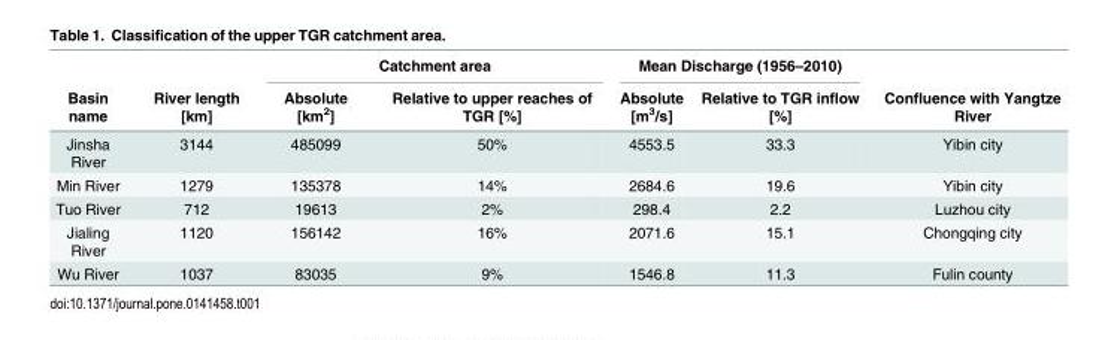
<table><thead><tr><td rowspan="2">Basin name</td><td rowspan="2">River length [km]</td><td colspan="2">Catchment area</td><td colspan="2">Mean Discharge (1956–2010)</td><td rowspan="2">Confluence with Yangtze River</td></tr><tr><td>Absolute [km<sup>2</sup>]</td><td>Relative to upper reaches of TGR [%]</td><td>Absolute [m<sup>3</sup>/s]</td><td>Relative to TGR inflow [%]</td></tr></thead><tbody><tr><td>Jinsha River</td><td>3144</td><td>485099</td><td>50%</td><td>4553.5</td><td>33.3</td><td>Yibin city</td></tr><tr><td>Min River</td><td>1279</td><td>135378</td><td>14%</td><td>2684.6</td><td>19.6</td><td>Yibin city</td></tr><tr><td>Tuo River</td><td>712</td><td>19613</td><td>2%</td><td>298.4</td><td>2.2</td><td>Luzhou city</td></tr><tr><td>Jialing River</td><td>1120</td><td>156142</td><td>16%</td><td>2071.6</td><td>15.1</td><td>Chongqing city</td></tr><tr><td>Wu River</td><td>1037</td><td>83035</td><td>9%</td><td>1546.8</td><td>11.3</td><td>Fulin county</td></tr></tbody></table>